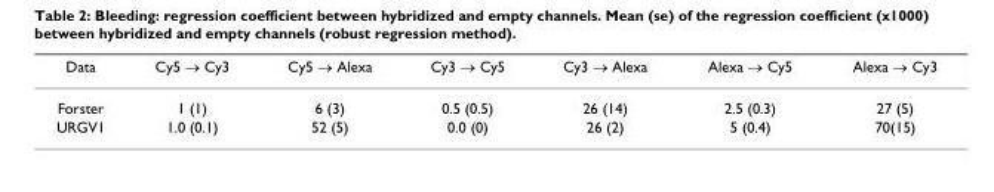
<table><thead><tr><td>Data</td><td>Cy5 → Cy3</td><td>Cy5 → Alexa</td><td>Cy3 → Cy5</td><td>Cy3 → Alexa</td><td>Alexa → Cy5</td><td>Alexa → Cy3</td></tr></thead><tbody><tr><td>Forster</td><td>1 (1)</td><td>6 (3)</td><td>0.5 (0.5)</td><td>26 (14)</td><td>2.5 (0.3)</td><td>27 (5)</td></tr><tr><td>URGV1</td><td>1.0 (0.1)</td><td>52 (5)</td><td>0.0 (0)</td><td>26 (2)</td><td>5 (0.4)</td><td>70(15)</td></tr></tbody></table>